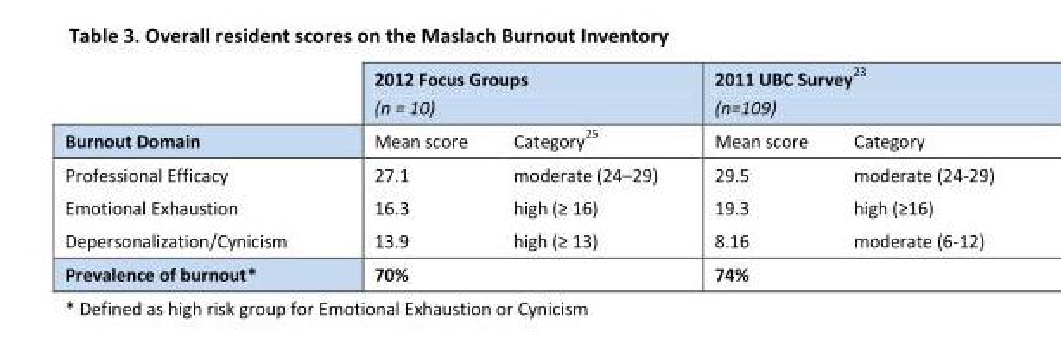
<table><thead><tr><td rowspan="2">Burnout Domain</td><td colspan="2">2012 Focus Groups (n = 10)</td><td colspan="2">2011 UBC Survey<sup>23</sup> (n=109)</td></tr><tr><td>Mean score</td><td>Category<sup>25</sup></td><td>Mean score</td><td>Category</td></tr></thead><tbody><tr><td>Professional Efficacy</td><td>27.1</td><td>moderate (24–29)</td><td>29.5</td><td>moderate (24-29)</td></tr><tr><td>Emotional Exhaustion</td><td>16.3</td><td>high (≥ 16)</td><td>19.3</td><td>high (≥16)</td></tr><tr><td>Depersonalization/Cynicism</td><td>13.9</td><td>high (≥ 13)</td><td>8.16</td><td>moderate (6-12)</td></tr><tr><td>Prevalence of burnout*</td><td>70%</td><td></td><td>74%</td><td></td></tr></tbody></table>